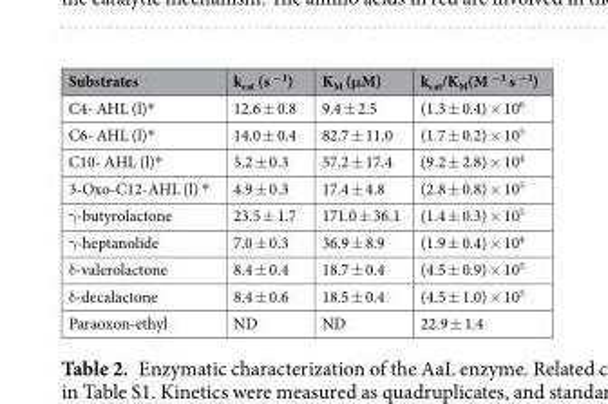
<table><thead><tr><td>Substrates</td><td>k<sub>cat</sub> (s <sup>−1</sup>)</td><td>K<sub>M</sub> (μM)</td><td>k<sub>cat</sub>/K<sub>M</sub>(M <sup>−1</sup> s <sup>−1</sup>)</td></tr></thead><tbody><tr><td>C4- AHL (l)*</td><td>12.6 ± 0.8</td><td>9.4 ± 2.5</td><td>(1.3 ± 0.4) × 10<sup>6</sup></td></tr><tr><td>C6- AHL (l)*</td><td>14.0 ± 0.4</td><td>82.7 ± 11.0</td><td>(1.7 ± 0.2) × 10<sup>5</sup></td></tr><tr><td>C10- AHL (l)*</td><td>5.2 ± 0.3</td><td>57.2 ± 17.4</td><td>(9.2 ± 2.8) × 10<sup>4</sup></td></tr><tr><td>3-Oxo-C12-AHL (l) *</td><td>4.9 ± 0.3</td><td>17.4 ± 4.8</td><td>(2.8 ± 0.8) × 10<sup>5</sup></td></tr><tr><td>γ-butyrolactone</td><td>23.5 ± 1.7</td><td>171.0 ± 36.1</td><td>(1.4 ± 0.3) × 10<sup>5</sup></td></tr><tr><td>γ-heptanolide</td><td>7.0 ± 0.3</td><td>36.9 ± 8.9</td><td>(1.9 ± 0.4) × 10<sup>4</sup></td></tr><tr><td>δ-valerolactone</td><td>8.4 ± 0.4</td><td>18.7 ± 0.4</td><td>(4.5 ± 0.9) × 10<sup>5</sup></td></tr><tr><td>δ-decalactone</td><td>8.4 ± 0.6</td><td>18.5 ± 0.4</td><td>(4.5 ± 1.0) × 10<sup>5</sup></td></tr><tr><td>Paraoxon-ethyl</td><td>ND</td><td>ND</td><td>22.9 ± 1.4</td></tr></tbody></table>